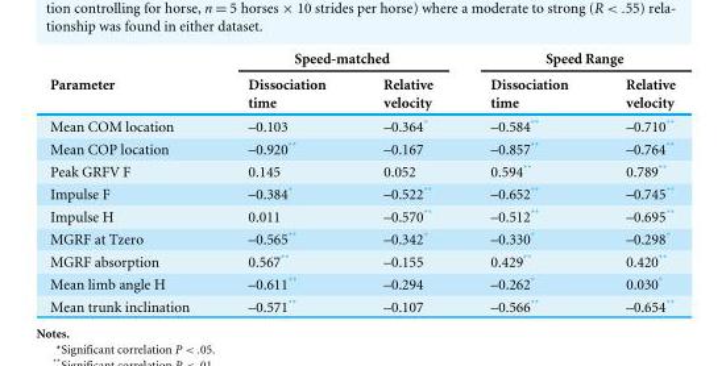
<table><thead><tr><td rowspan="2">Parameter</td><td colspan="2">Speed-matched</td><td colspan="2">Speed Range</td></tr><tr><td>Dissociation time</td><td>Relative velocity</td><td>Dissociation time</td><td>Relative velocity</td></tr></thead><tbody><tr><td>Mean COM location</td><td>–0.103</td><td>–0.364*</td><td>–0.584**</td><td>–0.710**</td></tr><tr><td>Mean COP location</td><td>–0.920**</td><td>–0.167</td><td>–0.857**</td><td>–0.764**</td></tr><tr><td>Peak GRFV F</td><td>0.145</td><td>0.052</td><td>0.594**</td><td>0.789**</td></tr><tr><td>Impulse F</td><td>–0.384*</td><td>–0.522**</td><td>–0.652**</td><td>–0.745**</td></tr><tr><td>Impulse H</td><td>0.011</td><td>–0.570**</td><td>–0.512**</td><td>–0.695**</td></tr><tr><td>MGRF at Tzero</td><td>–0.565**</td><td>–0.342*</td><td>–0.330*</td><td>–0.298*</td></tr><tr><td>MGRF absorption</td><td>0.567**</td><td>–0.155</td><td>0.429**</td><td>0.420**</td></tr><tr><td>Mean limb angle H</td><td>–0.611**</td><td>–0.294</td><td>–0.262*</td><td>0.030*</td></tr><tr><td>Mean trunk inclination</td><td>–0.571**</td><td>–0.107</td><td>–0.566**</td><td>–0.654**</td></tr></tbody></table>